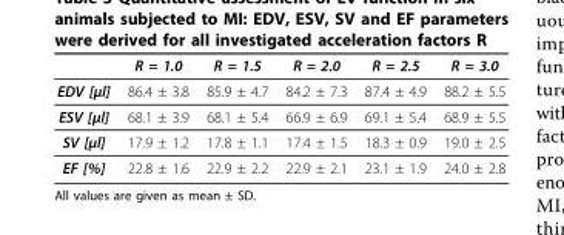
<table><thead><tr><td></td><td>R = 1.0</td><td>R = 1.5</td><td>R = 2.0</td><td>R = 2.5</td><td>R = 3.0</td></tr></thead><tbody><tr><td>EDV [μl]</td><td>86.4 ± 3.8</td><td>85.9 ± 4.7</td><td>84.2 ± 7.3</td><td>87.4 ± 4.9</td><td>88.2 ± 5.5</td></tr><tr><td>ESV [μl]</td><td>68.1 ± 3.9</td><td>68.1 ± 5.4</td><td>66.9 ± 6.9</td><td>69.1 ± 5.4</td><td>68.9 ± 5.5</td></tr><tr><td>SV [μl]</td><td>17.9 ± 1.2</td><td>17.8 ± 1.1</td><td>17.4 ± 1.5</td><td>18.3 ± 0.9</td><td>19.0 ± 2.5</td></tr><tr><td>EF [%]</td><td>22.8 ± 1.6</td><td>22.9 ± 2.2</td><td>22.9 ± 2.1</td><td>23.1 ± 1.9</td><td>24.0 ± 2.8</td></tr></tbody></table>